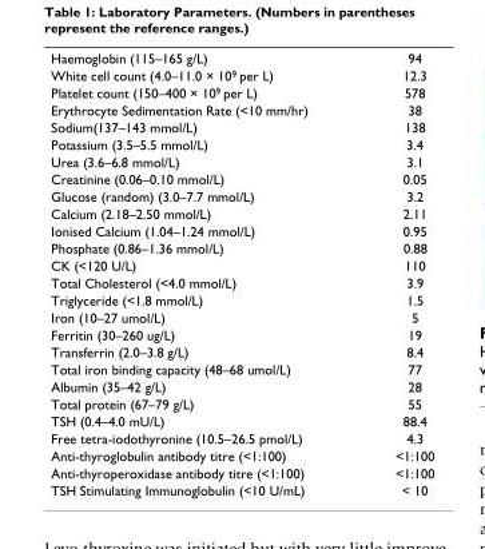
<table><tbody><tr><td>Haemoglobin (115–165 g/L)</td><td>94</td></tr><tr><td>White cell count (4.0–11.0 × 10<sup>9</sup> per L)</td><td>12.3</td></tr><tr><td>Platelet count (150–400 × 10<sup>9</sup> per L)</td><td>578</td></tr><tr><td>Erythrocyte Sedimentation Rate (&lt;10 mm/hr)</td><td>38</td></tr><tr><td>Sodium(137–143 mmol/L)</td><td>138</td></tr><tr><td>Potassium (3.5–5.5 mmol/L)</td><td>3.4</td></tr><tr><td>Urea (3.6–6.8 mmol/L)</td><td>3.1</td></tr><tr><td>Creatinine (0.06–0.10 mmol/L)</td><td>0.05</td></tr><tr><td>Glucose (random) (3.0–7.7 mmol/L)</td><td>3.2</td></tr><tr><td>Calcium (2.18–2.50 mmol/L)</td><td>2.11</td></tr><tr><td>Ionised Calcium (1.04–1.24 mmol/L)</td><td>0.95</td></tr><tr><td>Phosphate (0.86–1.36 mmol/L)</td><td>0.88</td></tr><tr><td>CK (&lt;120 U/L)</td><td>110</td></tr><tr><td>Total Cholesterol (&lt;4.0 mmol/L)</td><td>3.9</td></tr><tr><td>Triglyceride (&lt;1.8 mmol/L)</td><td>1.5</td></tr><tr><td>Iron (10–27 umol/L)</td><td>5</td></tr><tr><td>Ferritin (30–260 ug/L)</td><td>19</td></tr><tr><td>Transferrin (2.0–3.8 g/L)</td><td>8.4</td></tr><tr><td>Total iron binding capacity (48–68 umol/L)</td><td>77</td></tr><tr><td>Albumin (35–42 g/L)</td><td>28</td></tr><tr><td>Total protein (67–79 g/L)</td><td>55</td></tr><tr><td>TSH (0.4–4.0 mU/L)</td><td>88.4</td></tr><tr><td>Free tetra-iodothyronine (10.5–26.5 pmol/L)</td><td>4.3</td></tr><tr><td>Anti-thyroglobulin antibody titre (&lt;1:100)</td><td>&lt;1:100</td></tr><tr><td>Anti-thyroperoxidase antibody titre (&lt;1:100)</td><td>&lt;1:100</td></tr><tr><td>TSH Stimulating Immunoglobulin (&lt;10 U/mL)</td><td>&lt; 10</td></tr></tbody></table>